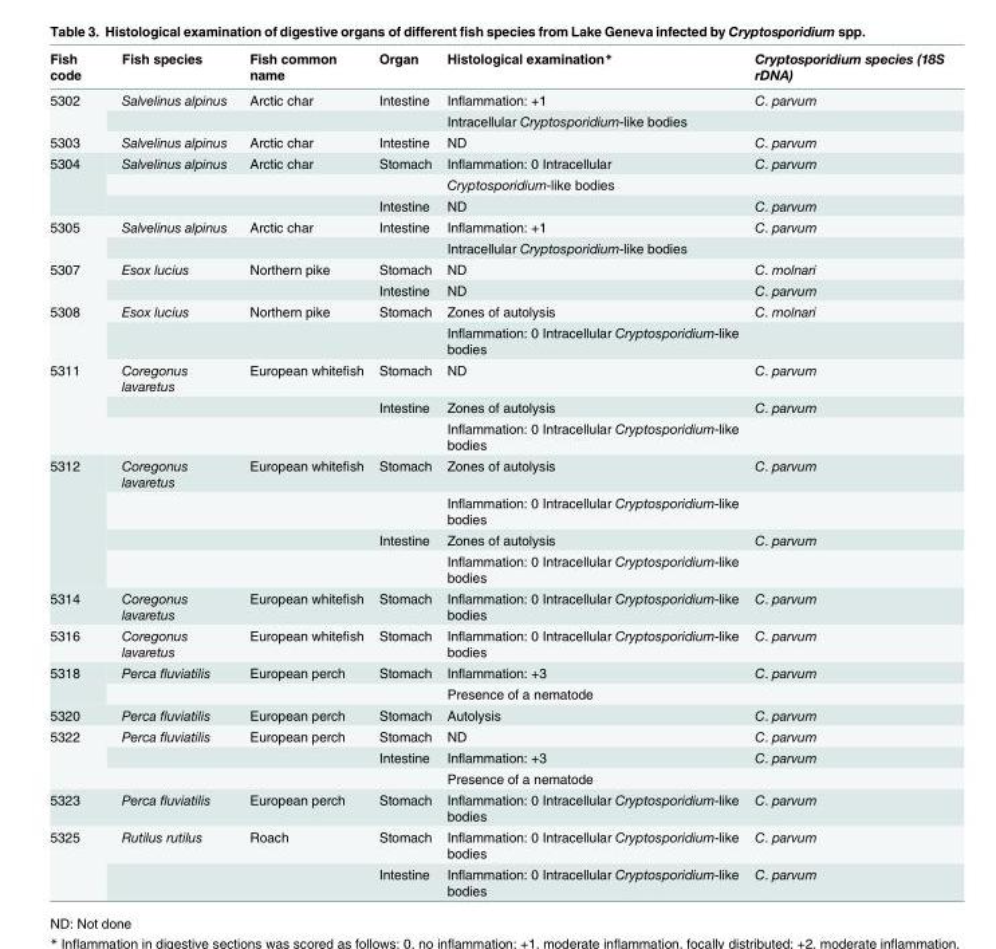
<table><thead><tr><td>Fish code</td><td>Fish species</td><td>Fish common name</td><td>Organ</td><td>Histological examination*</td><td>Cryptosporidium species (18S rDNA)</td></tr></thead><tbody><tr><td rowspan="2">5302</td><td>Salvelinus alpinus</td><td>Arctic char</td><td>Intestine</td><td>Inflammation: +1</td><td>C. parvum</td></tr><tr><td></td><td></td><td></td><td>Intracellular Cryptosporidium-like bodies</td><td></td></tr><tr><td>5303</td><td>Salvelinus alpinus</td><td>Arctic char</td><td>Intestine</td><td>ND</td><td>C. parvum</td></tr><tr><td rowspan="3">5304</td><td>Salvelinus alpinus</td><td>Arctic char</td><td>Stomach</td><td>Inflammation: 0 Intracellular</td><td>C. parvum</td></tr><tr><td></td><td></td><td></td><td>Cryptosporidium-like bodies</td><td></td></tr><tr><td></td><td></td><td>Intestine</td><td>ND</td><td>C. parvum</td></tr><tr><td rowspan="2">5305</td><td>Salvelinus alpinus</td><td>Arctic char</td><td>Intestine</td><td>Inflammation: +1</td><td>C. parvum</td></tr><tr><td></td><td></td><td></td><td>Intracellular Cryptosporidium-like bodies</td><td></td></tr><tr><td rowspan="2">5307</td><td>Esox lucius</td><td>Northern pike</td><td>Stomach</td><td>ND</td><td>C. molnari</td></tr><tr><td></td><td></td><td>Intestine</td><td>ND</td><td>C. parvum</td></tr><tr><td rowspan="2">5308</td><td>Esox lucius</td><td>Northern pike</td><td>Stomach</td><td>Zones of autolysis</td><td>C. molnari</td></tr><tr><td></td><td></td><td></td><td>Inflammation: 0 Intracellular Cryptosporidium-like bodies</td><td></td></tr><tr><td rowspan="3">5311</td><td>Coregonus lavaretus</td><td>European whitefish</td><td>Stomach</td><td>ND</td><td>C. parvum</td></tr><tr><td></td><td></td><td>Intestine</td><td>Zones of autolysis</td><td>C. parvum</td></tr><tr><td></td><td></td><td></td><td>Inflammation: 0 Intracellular Cryptosporidium-like bodies</td><td></td></tr><tr><td rowspan="4">5312</td><td>Coregonus lavaretus</td><td>European whitefish</td><td>Stomach</td><td>Zones of autolysis</td><td>C. parvum</td></tr><tr><td></td><td></td><td></td><td>Inflammation: 0 Intracellular Cryptosporidium-like bodies</td><td></td></tr><tr><td></td><td></td><td>Intestine</td><td>Zones of autolysis</td><td>C. parvum</td></tr><tr><td></td><td></td><td></td><td>Inflammation: 0 Intracellular Cryptosporidium-like bodies</td><td></td></tr><tr><td>5314</td><td>Coregonus lavaretus</td><td>European whitefish</td><td>Stomach</td><td>Inflammation: 0 Intracellular Cryptosporidium-like bodies</td><td>C. parvum</td></tr><tr><td>5316</td><td>Coregonus lavaretus</td><td>European whitefish</td><td>Stomach</td><td>Inflammation: 0 Intracellular Cryptosporidium-like bodies</td><td>C. parvum</td></tr><tr><td rowspan="2">5318</td><td>Perca fluviatilis</td><td>European perch</td><td>Stomach</td><td>Inflammation: +3</td><td>C. parvum</td></tr><tr><td></td><td></td><td></td><td>Presence of a nematode</td><td></td></tr><tr><td>5320</td><td>Perca fluviatilis</td><td>European perch</td><td>Stomach</td><td>Autolysis</td><td>C. parvum</td></tr><tr><td rowspan="3">5322</td><td>Perca fluviatilis</td><td>European perch</td><td>Stomach</td><td>ND</td><td>C. parvum</td></tr><tr><td></td><td></td><td>Intestine</td><td>Inflammation: +3</td><td>C. parvum</td></tr><tr><td></td><td></td><td></td><td>Presence of a nematode</td><td></td></tr><tr><td>5323</td><td>Perca fluviatilis</td><td>European perch</td><td>Stomach</td><td>Inflammation: 0 Intracellular Cryptosporidium-like bodies</td><td>C. parvum</td></tr><tr><td rowspan="2">5325</td><td>Rutilus rutilus</td><td>Roach</td><td>Stomach</td><td>Inflammation: 0 Intracellular Cryptosporidium-like bodies</td><td>C. parvum</td></tr><tr><td></td><td></td><td>Intestine</td><td>Inflammation: 0 Intracellular Cryptosporidium-like bodies</td><td>C. parvum</td></tr></tbody></table>